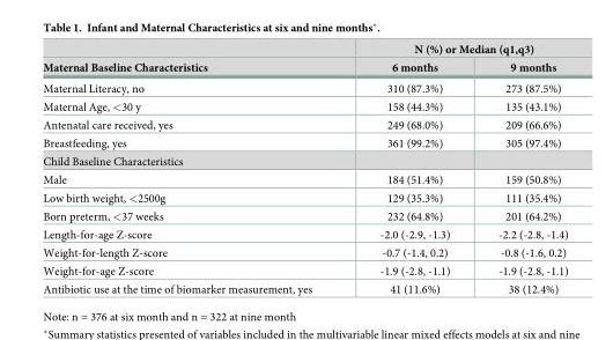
<table><thead><tr><td rowspan="2">Maternal Baseline Characteristics</td><td colspan="2">N (%) or Median (q1,q3)</td></tr><tr><td>6 months</td><td>9 months</td></tr></thead><tbody><tr><td>Maternal Literacy, no</td><td>310 (87.3%)</td><td>273 (87.5%)</td></tr><tr><td>Maternal Age, &lt;30 y</td><td>158 (44.3%)</td><td>135 (43.1%)</td></tr><tr><td>Antenatal care received, yes</td><td>249 (68.0%)</td><td>209 (66.6%)</td></tr><tr><td>Breastfeeding, yes</td><td>361 (99.2%)</td><td>305 (97.4%)</td></tr><tr><td colspan="3">Child Baseline Characteristics</td></tr><tr><td>Male</td><td>184 (51.4%)</td><td>159 (50.8%)</td></tr><tr><td>Low birth weight, &lt;2500g</td><td>129 (35.3%)</td><td>111 (35.4%)</td></tr><tr><td>Born preterm, &lt;37 weeks</td><td>232 (64.8%)</td><td>201 (64.2%)</td></tr><tr><td>Length-for-age Z-score</td><td>-2.0 (-2.9, -1.3)</td><td>-2.2 (-2.8, -1.4)</td></tr><tr><td>Weight-for-length Z-score</td><td>-0.7 (-1.4, 0.2)</td><td>-0.8 (-1.6, 0.2)</td></tr><tr><td>Weight-for-age Z-score</td><td>-1.9 (-2.8, -1.1)</td><td>-1.9 (-2.8, -1.1)</td></tr><tr><td>Antibiotic use at the time of biomarker measurement, yes</td><td>41 (11.6%)</td><td>38 (12.4%)</td></tr></tbody></table>